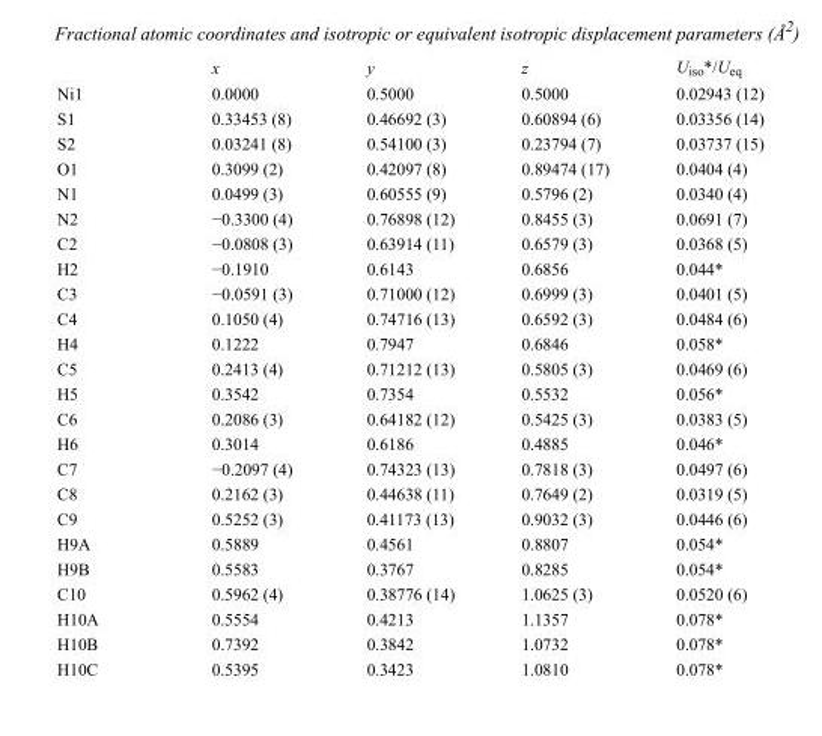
<table><thead><tr><td></td><td>x</td><td>y</td><td>z</td><td>U<sub>iso</sub>*/U<sub>eq</sub></td></tr></thead><tbody><tr><td>Ni1</td><td>0.0000</td><td>0.5000</td><td>0.5000</td><td>0.02943 (12)</td></tr><tr><td>S1</td><td>0.33453 (8)</td><td>0.46692 (3)</td><td>0.60894 (6)</td><td>0.03356 (14)</td></tr><tr><td>S2</td><td>0.03241 (8)</td><td>0.54100 (3)</td><td>0.23794 (7)</td><td>0.03737 (15)</td></tr><tr><td>O1</td><td>0.3099 (2)</td><td>0.42097 (8)</td><td>0.89474 (17)</td><td>0.0404 (4)</td></tr><tr><td>N1</td><td>0.0499 (3)</td><td>0.60555 (9)</td><td>0.5796 (2)</td><td>0.0340 (4)</td></tr><tr><td>N2</td><td>−0.3300 (4)</td><td>0.76898 (12)</td><td>0.8455 (3)</td><td>0.0691 (7)</td></tr><tr><td>C2</td><td>−0.0808 (3)</td><td>0.63914 (11)</td><td>0.6579 (3)</td><td>0.0368 (5)</td></tr><tr><td>H2</td><td>−0.1910</td><td>0.6143</td><td>0.6856</td><td>0.044*</td></tr><tr><td>C3</td><td>−0.0591 (3)</td><td>0.71000 (12)</td><td>0.6999 (3)</td><td>0.0401 (5)</td></tr><tr><td>C4</td><td>0.1050 (4)</td><td>0.74716 (13)</td><td>0.6592 (3)</td><td>0.0484 (6)</td></tr><tr><td>H4</td><td>0.1222</td><td>0.7947</td><td>0.6846</td><td>0.058*</td></tr><tr><td>C5</td><td>0.2413 (4)</td><td>0.71212 (13)</td><td>0.5805 (3)</td><td>0.0469 (6)</td></tr><tr><td>H5</td><td>0.3542</td><td>0.7354</td><td>0.5532</td><td>0.056*</td></tr><tr><td>C6</td><td>0.2086 (3)</td><td>0.64182 (12)</td><td>0.5425 (3)</td><td>0.0383 (5)</td></tr><tr><td>H6</td><td>0.3014</td><td>0.6186</td><td>0.4885</td><td>0.046*</td></tr><tr><td>C7</td><td>−0.2097 (4)</td><td>0.74323 (13)</td><td>0.7818 (3)</td><td>0.0497 (6)</td></tr><tr><td>C8</td><td>0.2162 (3)</td><td>0.44638 (11)</td><td>0.7649 (2)</td><td>0.0319 (5)</td></tr><tr><td>C9</td><td>0.5252 (3)</td><td>0.41173 (13)</td><td>0.9032 (3)</td><td>0.0446 (6)</td></tr><tr><td>H9A</td><td>0.5889</td><td>0.4561</td><td>0.8807</td><td>0.054*</td></tr><tr><td>H9B</td><td>0.5583</td><td>0.3767</td><td>0.8285</td><td>0.054*</td></tr><tr><td>C10</td><td>0.5962 (4)</td><td>0.38776 (14)</td><td>1.0625 (3)</td><td>0.0520 (6)</td></tr><tr><td>H10A</td><td>0.5554</td><td>0.4213</td><td>1.1357</td><td>0.078*</td></tr><tr><td>H10B</td><td>0.7392</td><td>0.3842</td><td>1.0732</td><td>0.078*</td></tr><tr><td>H10C</td><td>0.5395</td><td>0.3423</td><td>1.0810</td><td>0.078*</td></tr></tbody></table>